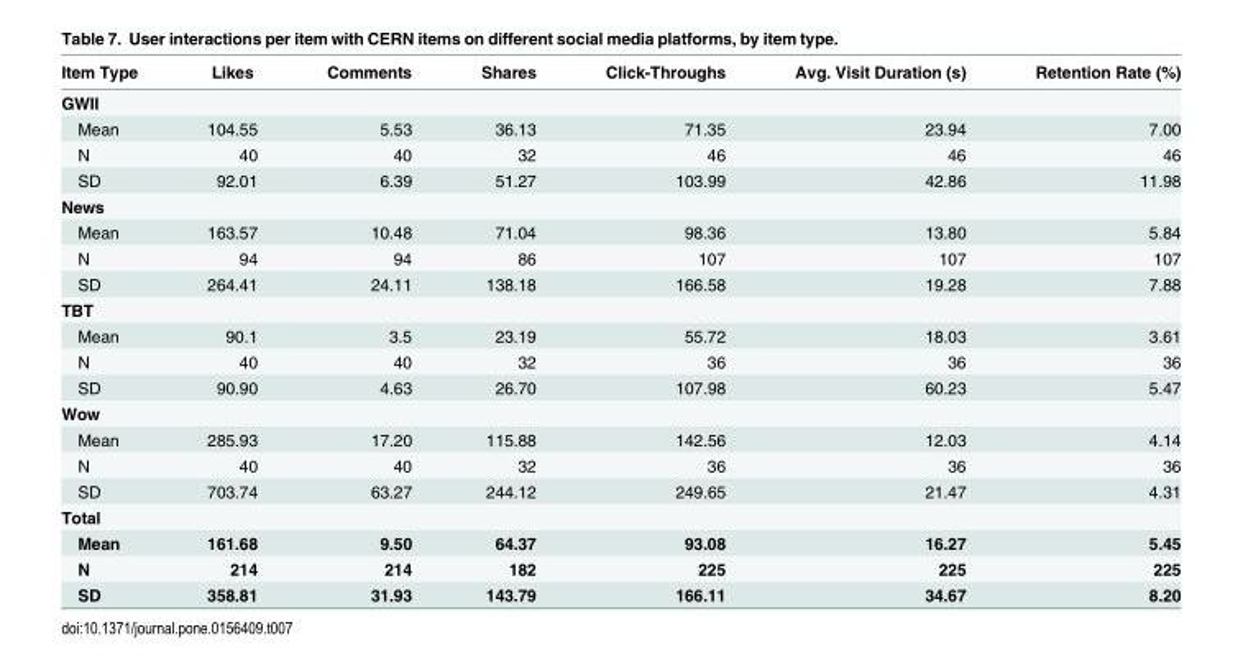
<table><thead><tr><td>Item Type</td><td>Likes</td><td>Comments</td><td>Shares</td><td>Click-Throughs</td><td>Avg. Visit Duration (s)</td><td>Retention Rate (%)</td></tr></thead><tbody><tr><td colspan="7">GWII</td></tr><tr><td>Mean</td><td>104.55</td><td>5.53</td><td>36.13</td><td>71.35</td><td>23.94</td><td>7.00</td></tr><tr><td>N</td><td>40</td><td>40</td><td>32</td><td>46</td><td>46</td><td>46</td></tr><tr><td>SD</td><td>92.01</td><td>6.39</td><td>51.27</td><td>103.99</td><td>42.86</td><td>11.98</td></tr><tr><td colspan="7">News</td></tr><tr><td>Mean</td><td>163.57</td><td>10.48</td><td>71.04</td><td>98.36</td><td>13.80</td><td>5.84</td></tr><tr><td>N</td><td>94</td><td>94</td><td>86</td><td>107</td><td>107</td><td>107</td></tr><tr><td>SD</td><td>264.41</td><td>24.11</td><td>138.18</td><td>166.58</td><td>19.28</td><td>7.88</td></tr><tr><td colspan="7">TBT</td></tr><tr><td>Mean</td><td>90.1</td><td>3.5</td><td>23.19</td><td>55.72</td><td>18.03</td><td>3.61</td></tr><tr><td>N</td><td>40</td><td>40</td><td>32</td><td>36</td><td>36</td><td>36</td></tr><tr><td>SD</td><td>90.90</td><td>4.63</td><td>26.70</td><td>107.98</td><td>60.23</td><td>5.47</td></tr><tr><td colspan="7">Wow</td></tr><tr><td>Mean</td><td>285.93</td><td>17.20</td><td>115.88</td><td>142.56</td><td>12.03</td><td>4.14</td></tr><tr><td>N</td><td>40</td><td>40</td><td>32</td><td>36</td><td>36</td><td>36</td></tr><tr><td>SD</td><td>703.74</td><td>63.27</td><td>244.12</td><td>249.65</td><td>21.47</td><td>4.31</td></tr><tr><td colspan="7">Total</td></tr><tr><td>Mean</td><td>161.68</td><td>9.50</td><td>64.37</td><td>93.08</td><td>16.27</td><td>5.45</td></tr><tr><td>N</td><td>214</td><td>214</td><td>182</td><td>225</td><td>225</td><td>225</td></tr><tr><td>SD</td><td>358.81</td><td>31.93</td><td>143.79</td><td>166.11</td><td>34.67</td><td>8.20</td></tr></tbody></table>